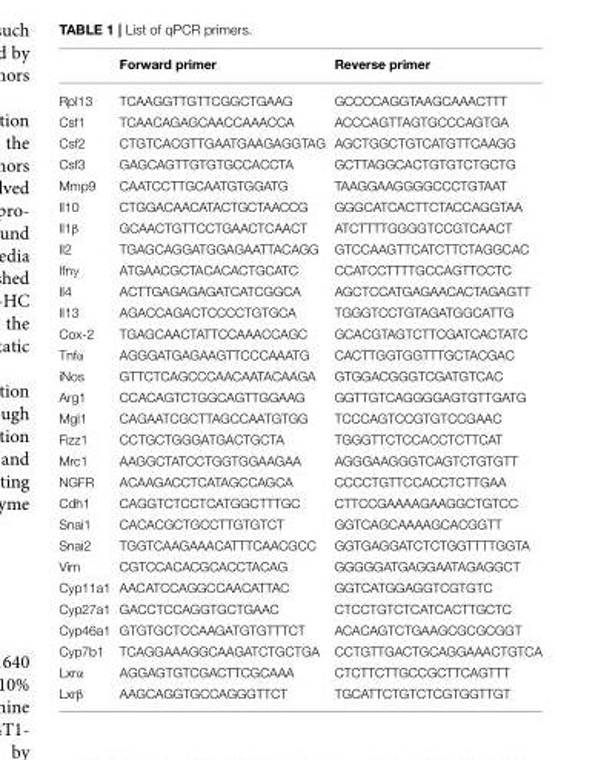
<table><thead><tr><td></td><td>Forward primer</td><td>Reverse primer</td></tr></thead><tbody><tr><td>Rpl13</td><td>TCAAGGTTGTTCGGCTGAAG</td><td>GCCCCAGGTAAGCAAACTTT</td></tr><tr><td>Csf1</td><td>TCAACAGAGCAACCAAACCA</td><td>ACCCAGTTAGTGCCCAGTGA</td></tr><tr><td>Csf2</td><td>CTGTCACGTTGAATGAAGAGGTAG</td><td>AGCTGGCTGTCATGTTCAAGG</td></tr><tr><td>Csf3</td><td>GAGCAGTTGTGTGCCACCTA</td><td>GCTTAGGCACTGTGTCTGCTG</td></tr><tr><td>Mmp9</td><td>CAATCCTTGCAATGTGGATG</td><td>TAAGGAAGGGGCCCTGTAAT</td></tr><tr><td>Il10</td><td>CTGGACAACATACTGCTAACCG</td><td>GGGCATCACTTCTACCAGGTAA</td></tr><tr><td>Il1β</td><td>GCAACTGTTCCTGAACTCAACT</td><td>ATCTTTTGGGGTCCGTCAACT</td></tr><tr><td>Il2</td><td>TGAGCAGGATGGAGAATTACAGG</td><td>GTCCAAGTTCATCTTCTAGGCAC</td></tr><tr><td>Ifnγ</td><td>ATGAACGCTACACACTGCATC</td><td>CCATCCTTTTGCCAGTTCCTC</td></tr><tr><td>Il4</td><td>ACTTGAGAGAGATCATCGGCA</td><td>AGCTCCATGAGAACACTAGAGTT</td></tr><tr><td>Il13</td><td>AGACCAGACTCCCCTGTGCA</td><td>TGGGTCCTGTAGATGGCATTG</td></tr><tr><td>Cox-2</td><td>TGAGCAACTATTCCAAACCAGC</td><td>GCACGTAGTCTTCGATCACTATC</td></tr><tr><td>Tnfα</td><td>AGGGATGAGAAGTTCCCAAATG</td><td>CACTTGGTGGTTTGCTACGAC</td></tr><tr><td>iNos</td><td>GTTCTCAGCCCAACAATACAAGA</td><td>GTGGACGGGTCGATGTCAC</td></tr><tr><td>Arg1</td><td>CCACAGTCTGGCAGTTGGAAG</td><td>GGTTGTCAGGGGAGTGTTGATG</td></tr><tr><td>Mgl1</td><td>CAGAATCGCTTAGCCAATGTGG</td><td>TCCCAGTCCGTGTCCGAAC</td></tr><tr><td>Fizz1</td><td>CCTGCTGGGATGACTGCTA</td><td>TGGGTTCTCCACCTCTTCAT</td></tr><tr><td>Mrc1</td><td>AAGGCTATCCTGGTGGAAGAA</td><td>AGGGAAGGGTCAGTCTGTGTT</td></tr><tr><td>NGFR</td><td>ACAAGACCTCATAGCCAGCA</td><td>CCCCTGTTCCACCTCTTGAA</td></tr><tr><td>Cdh1</td><td>CAGGTCTCCTCATGGCTTTGC</td><td>CTTCCGAAAAGAAGGCTGTCC</td></tr><tr><td>Snai1</td><td>CACACGCTGCCTTGTGTCT</td><td>GGTCAGCAAAAGCACGGTT</td></tr><tr><td>Snai2</td><td>TGGTCAAGAAACATTTCAACGCC</td><td>GGTGAGGATCTCTGGTTTTGGTA</td></tr><tr><td>Vim</td><td>CGTCCACACGCACCTACAG</td><td>GGGGGATGAGGAATAGAGGCT</td></tr><tr><td>Cyp11a1</td><td>AACATCCAGGCCAACATTAC</td><td>GGTCATGGAGGTCGTGTC</td></tr><tr><td>Cyp27a1</td><td>GACCTCCAGGTGCTGAAC</td><td>CTCCTGTCTCATCACTTGCTC</td></tr><tr><td>Cyp46a1</td><td>GTGTGCTCCAAGATGTGTTTCT</td><td>ACACAGTCTGAAGCGCGCGGT</td></tr><tr><td>Cyp7b1</td><td>TCAGGAAAGGCAAGATCTGCTGA</td><td>CCTGTTGACTGCAGGAAACTGTCA</td></tr><tr><td>Lxrα</td><td>AGGAGTGTCGACTTCGCAAA</td><td>CTCTTCTTGCCGCTTCAGTTT</td></tr><tr><td>Lxrβ</td><td>AAGCAGGTGCCAGGGTTCT</td><td>TGCATTCTGTCTCGTGGTTGT</td></tr></tbody></table>